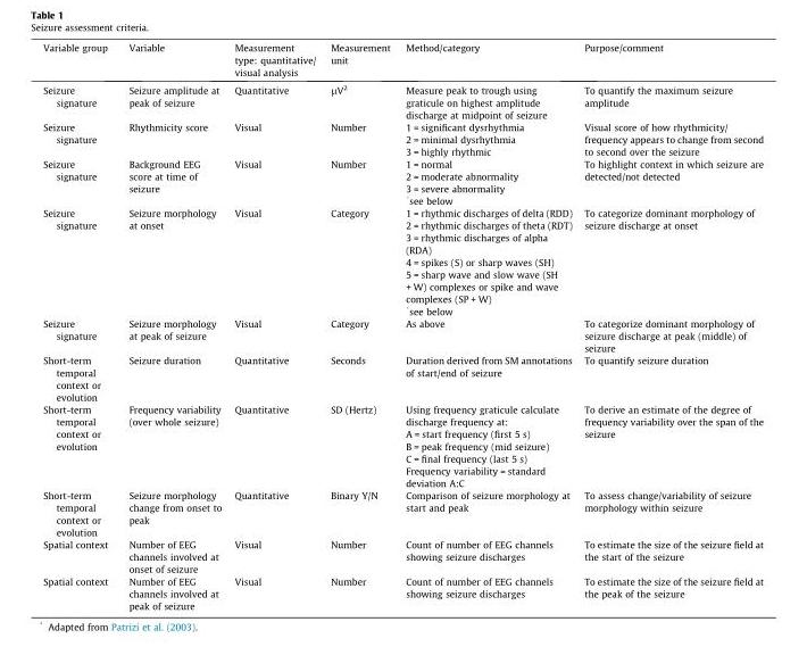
<table><thead><tr><td>Variable group</td><td>Variable</td><td>Measurement type: quantitative/ visual analysis</td><td>Measurement unit</td><td>Method/category</td><td>Purpose/comment</td></tr></thead><tbody><tr><td>Seizure signature</td><td>Seizure amplitude at peak of seizure</td><td>Quantitative</td><td>μV<sup>2</sup></td><td>Measure peak to trough using graticule on highest amplitude discharge at midpoint of seizure</td><td>To quantify the maximum seizure amplitude</td></tr><tr><td>Seizure signature</td><td>Rhythmicity score</td><td>Visual</td><td>Number</td><td>1 = significant dysrhythmia 2 = minimal dysrhythmia 3 = highly rhythmic</td><td>Visual score of how rhythmicity/ frequency appears to change from second to second over the seizure</td></tr><tr><td>Seizure signature</td><td>Background EEG score at time of seizure</td><td>Visual</td><td>Number</td><td>1 = normal 2 = moderate abnormality 3 = severe abnormality *see below</td><td>To highlight context in which seizure are detected/not detected</td></tr><tr><td>Seizure signature</td><td>Seizure morphology at onset</td><td>Visual</td><td>Category</td><td>1 = rhythmic discharges of delta (RDD) 2 = rhythmic discharges of theta (RDT) 3 = rhythmic discharges of alpha (RDA) 4 = spikes (S) or sharp waves (SH) 5 = sharp wave and slow wave (SH + W) complexes or spike and wave complexes (SP + W) *see below</td><td>To categorize dominant morphology of seizure discharge at onset</td></tr><tr><td>Seizure signature</td><td>Seizure morphology at peak of seizure</td><td>Visual</td><td>Category</td><td>As above</td><td>To categorize dominant morphology of seizure discharge at peak (middle) of seizure</td></tr><tr><td>Short-term temporal context or evolution</td><td>Seizure duration</td><td>Quantitative</td><td>Seconds</td><td>Duration derived from SM annotations of start/end of seizure</td><td>To quantify seizure duration</td></tr><tr><td>Short-term temporal context or evolution</td><td>Frequency variability (over whole seizure)</td><td>Quantitative</td><td>SD (Hertz)</td><td>Using frequency graticule calculate discharge frequency at: A = start frequency (first 5 s) B = peak frequency (mid seizure) C = final frequency (last 5 s) Frequency variability = standard deviation A:C</td><td>To derive an estimate of the degree of frequency variability over the span of the seizure</td></tr><tr><td>Short-term temporal context or evolution</td><td>Seizure morphology change from onset to peak</td><td>Quantitative</td><td>Binary Y/N</td><td>Comparison of seizure morphology at start and peak</td><td>To assess change/variability of seizure morphology within seizure</td></tr><tr><td>Spatial context</td><td>Number of EEG channels involved at onset of seizure</td><td>Visual</td><td>Number</td><td>Count of number of EEG channels showing seizure discharges</td><td>To estimate the size of the seizure field at the start of the seizure</td></tr><tr><td>Spatial context</td><td>Number of EEG channels involved at peak of seizure</td><td>Visual</td><td>Number</td><td>Count of number of EEG channels showing seizure discharges</td><td>To estimate the size of the seizure field at the peak of the seizure</td></tr></tbody></table>